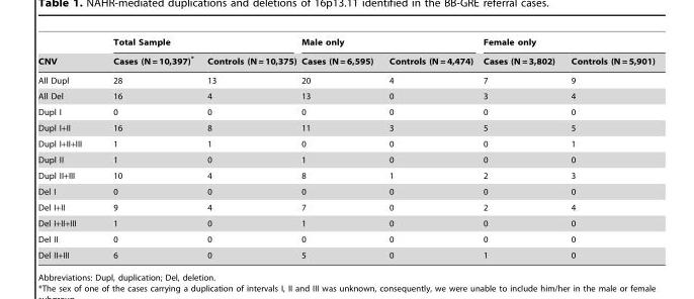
<table><thead><tr><td rowspan="2">CNV</td><td colspan="2">Total Sample</td><td colspan="2">Male only</td><td colspan="2">Female only</td></tr><tr><td>Cases (N = 10,397)*</td><td>Controls (N = 10,375)</td><td>Cases (N = 6,595)</td><td>Controls (N = 4,474)</td><td>Cases (N = 3,802)</td><td>Controls (N = 5,901)</td></tr></thead><tbody><tr><td>All Dupl</td><td>28</td><td>13</td><td>20</td><td>4</td><td>7</td><td>9</td></tr><tr><td>All Del</td><td>16</td><td>4</td><td>13</td><td>0</td><td>3</td><td>4</td></tr><tr><td>Dupl I</td><td>0</td><td>0</td><td>0</td><td>0</td><td>0</td><td>0</td></tr><tr><td>Dupl I+II</td><td>16</td><td>8</td><td>11</td><td>3</td><td>5</td><td>5</td></tr><tr><td>Dupl I+II+III</td><td>1</td><td>1</td><td>0</td><td>0</td><td>0</td><td>1</td></tr><tr><td>Dupl II</td><td>1</td><td>0</td><td>1</td><td>0</td><td>0</td><td>0</td></tr><tr><td>Dupl II+III</td><td>10</td><td>4</td><td>8</td><td>1</td><td>2</td><td>3</td></tr><tr><td>Del I</td><td>0</td><td>0</td><td>0</td><td>0</td><td>0</td><td>0</td></tr><tr><td>Del I+II</td><td>9</td><td>4</td><td>7</td><td>0</td><td>2</td><td>4</td></tr><tr><td>Del I+II+III</td><td>1</td><td>0</td><td>1</td><td>0</td><td>0</td><td>0</td></tr><tr><td>Del II</td><td>0</td><td>0</td><td>0</td><td>0</td><td>0</td><td>0</td></tr><tr><td>Del II+III</td><td>6</td><td>0</td><td>5</td><td>0</td><td>1</td><td>0</td></tr></tbody></table>